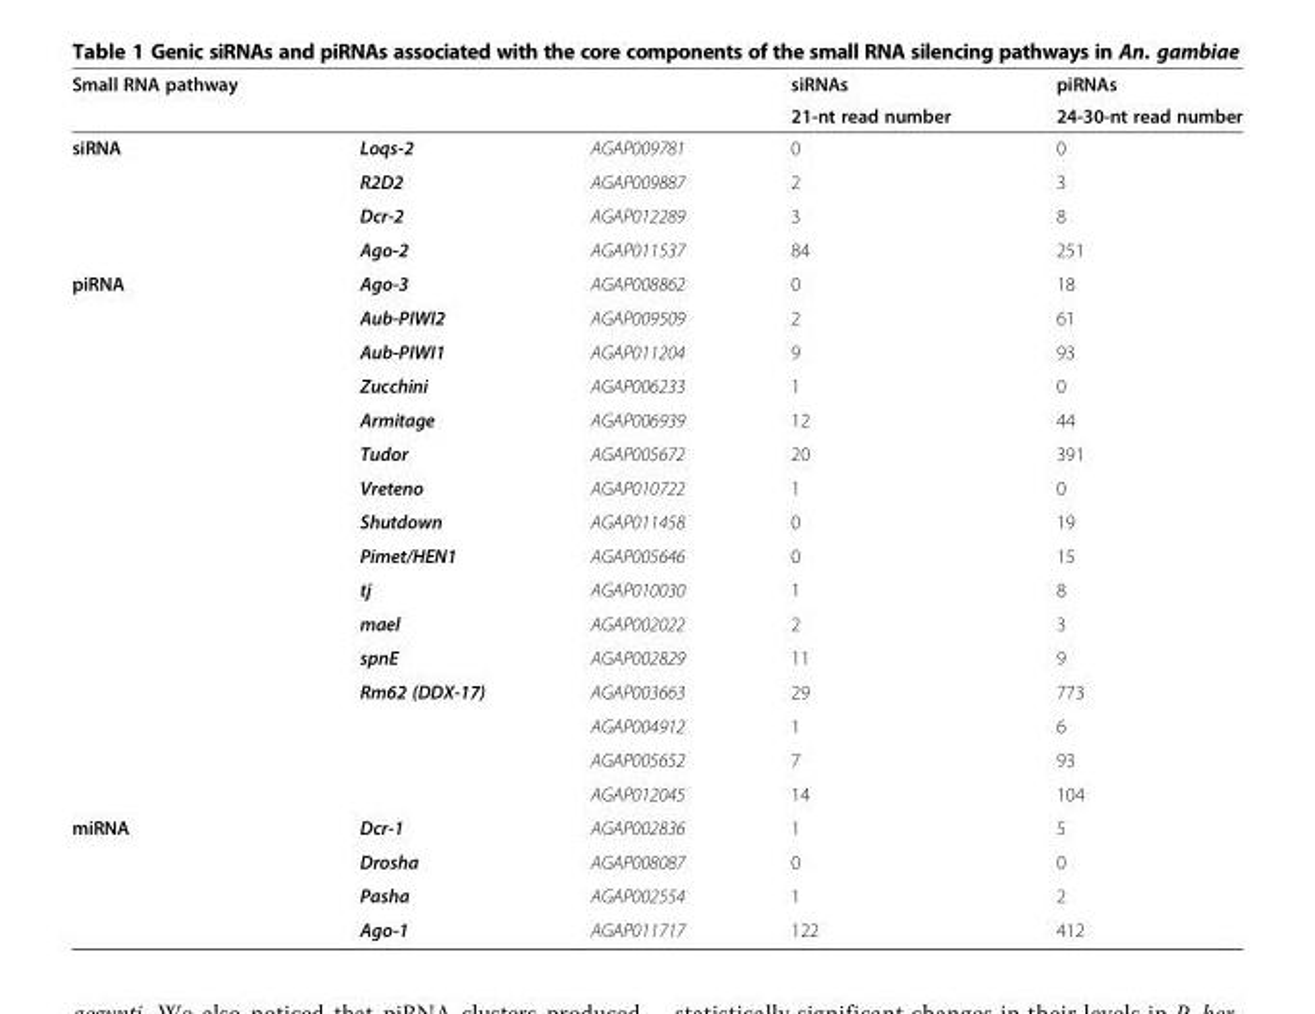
<table><thead><tr><td rowspan="2">Small RNA pathway</td><td rowspan="2"></td><td rowspan="2"></td><td rowspan="2">siRNAs 21-nt read number</td><td rowspan="2">piRNAs 24-30-nt read number</td></tr><tr></tr></thead><tbody><tr><td rowspan="4">siRNA</td><td>Loqs-2</td><td>AGAP009781</td><td>0</td><td>0</td></tr><tr><td>R2D2</td><td>AGAP009887</td><td>2</td><td>3</td></tr><tr><td>Dcr-2</td><td>AGAP012289</td><td>3</td><td>8</td></tr><tr><td>Ago-2</td><td>AGAP011537</td><td>84</td><td>251</td></tr><tr><td rowspan="16">piRNA</td><td>Ago-3</td><td>AGAP008862</td><td>0</td><td>18</td></tr><tr><td>Aub-PIWI2</td><td>AGAP009509</td><td>2</td><td>61</td></tr><tr><td>Aub-PIWI1</td><td>AGAP011204</td><td>9</td><td>93</td></tr><tr><td>Zucchini</td><td>AGAP006233</td><td>1</td><td>0</td></tr><tr><td>Armitage</td><td>AGAP006939</td><td>12</td><td>44</td></tr><tr><td>Tudor</td><td>AGAP005672</td><td>20</td><td>391</td></tr><tr><td>Vreteno</td><td>AGAP010722</td><td>1</td><td>0</td></tr><tr><td>Shutdown</td><td>AGAP011458</td><td>0</td><td>19</td></tr><tr><td>Pimet/HEN1</td><td>AGAP005646</td><td>0</td><td>15</td></tr><tr><td>tj</td><td>AGAP010030</td><td>1</td><td>8</td></tr><tr><td>mael</td><td>AGAP002022</td><td>2</td><td>3</td></tr><tr><td>spnE</td><td>AGAP002829</td><td>11</td><td>9</td></tr><tr><td>Rm62 (DDX-17)</td><td>AGAP003663</td><td>29</td><td>773</td></tr><tr><td></td><td>AGAP004912</td><td>1</td><td>6</td></tr><tr><td></td><td>AGAP005652</td><td>7</td><td>93</td></tr><tr><td></td><td>AGAP012045</td><td>14</td><td>104</td></tr><tr><td rowspan="4">miRNA</td><td>Dcr-1</td><td>AGAP002836</td><td>1</td><td>5</td></tr><tr><td>Drosha</td><td>AGAP008087</td><td>0</td><td>0</td></tr><tr><td>Pasha</td><td>AGAP002554</td><td>1</td><td>2</td></tr><tr><td>Ago-1</td><td>AGAP011717</td><td>122</td><td>412</td></tr></tbody></table>